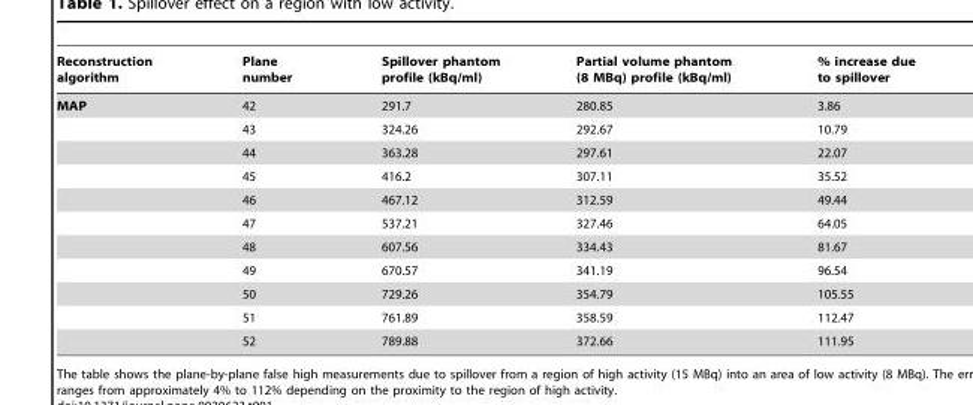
<table><thead><tr><td>Reconstruction algorithm</td><td>Plane number</td><td>Spillover phantom profile (kBq/ml)</td><td>Partial volume phantom (8 MBq) profile (kBq/ml)</td><td>% increase due to spillover</td></tr></thead><tbody><tr><td rowspan="11">MAP</td><td>42</td><td>291.7</td><td>280.85</td><td>3.86</td></tr><tr><td>43</td><td>324.26</td><td>292.67</td><td>10.79</td></tr><tr><td>44</td><td>363.28</td><td>297.61</td><td>22.07</td></tr><tr><td>45</td><td>416.2</td><td>307.11</td><td>35.52</td></tr><tr><td>46</td><td>467.12</td><td>312.59</td><td>49.44</td></tr><tr><td>47</td><td>537.21</td><td>327.46</td><td>64.05</td></tr><tr><td>48</td><td>607.56</td><td>334.43</td><td>81.67</td></tr><tr><td>49</td><td>670.57</td><td>341.19</td><td>96.54</td></tr><tr><td>50</td><td>729.26</td><td>354.79</td><td>105.55</td></tr><tr><td>51</td><td>761.89</td><td>358.59</td><td>112.47</td></tr><tr><td>52</td><td>789.88</td><td>372.66</td><td>111.95</td></tr></tbody></table>